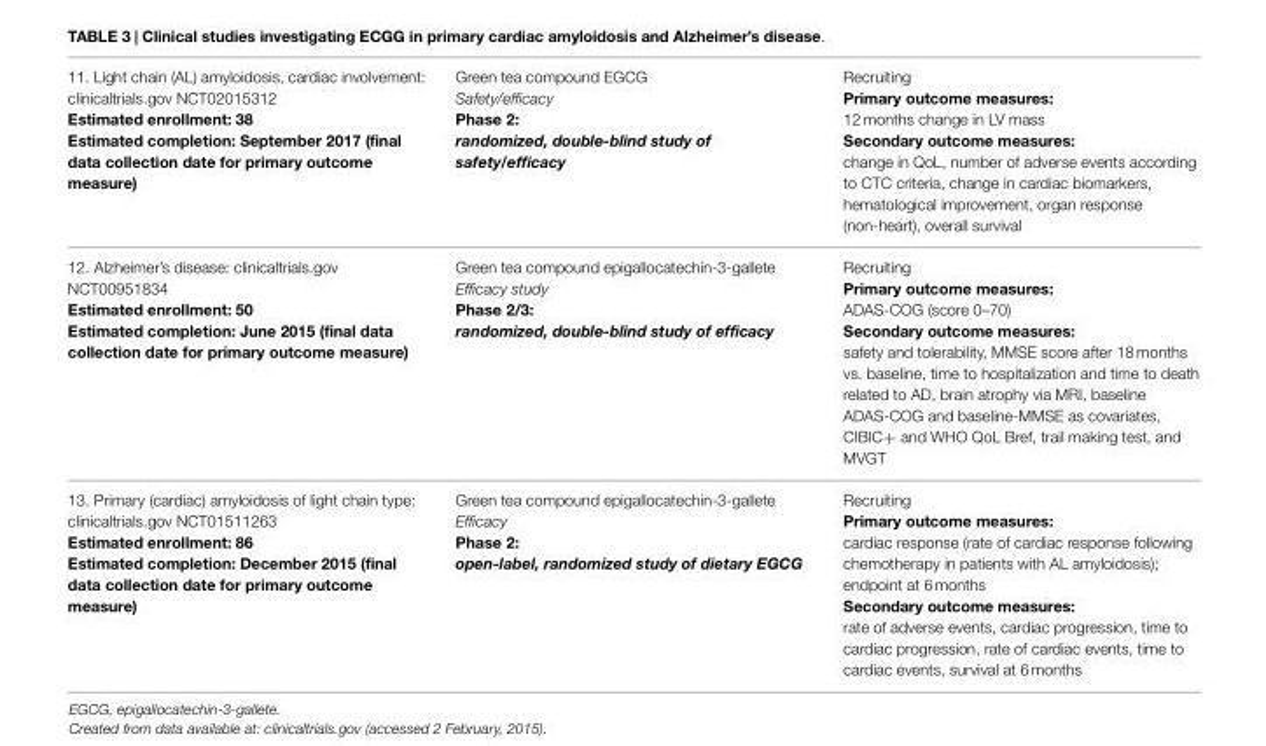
<table><tbody><tr><td>11. Light chain (AL) amyloidosis, cardiac involvement: clinicaltrials.gov NCT02015312 Estimated enrollment: 38 Estimated completion: September 2017 (final data collection date for primary outcome measure)</td><td>Green tea compound EGCG Safety/efficacy Phase 2: randomized, double-blind study of safety/efficacy</td><td>Recruiting Primary outcome measures: 12 months change in LV mass Secondary outcome measures: change in QoL, number of adverse events according to CTC criteria, change in cardiac biomarkers, hematological improvement, organ response (non-heart), overall survival</td></tr><tr><td>12. Alzheimer’s disease: clinicaltrials.gov NCT00951834 Estimated enrollment: 50 Estimated completion: June 2015 (final data collection date for primary outcome measure)</td><td>Green tea compound epigallocatechin-3-gallete Efficacy study Phase 2/3: randomized, double-blind study of efficacy</td><td>Recruiting Primary outcome measures: ADAS-COG (score 0–70) Secondary outcome measures: safety and tolerability, MMSE score after 18 months vs. baseline, time to hospitalization and time to death related to AD, brain atrophy via MRI, baseline ADAS-COG and baseline-MMSE as covariates, CIBIC+ and WHO QoL Bref, trail making test, and MVGT</td></tr><tr><td>13. Primary (cardiac) amyloidosis of light chain type: clinicaltrials.gov NCT01511263 Estimated enrollment: 86 Estimated completion: December 2015 (final data collection date for primary outcome measure)</td><td>Green tea compound epigallocatechin-3-gallete Efficacy Phase 2: open-label, randomized study of dietary EGCG</td><td>Recruiting Primary outcome measures: cardiac response (rate of cardiac response following chemotherapy in patients with AL amyloidosis); endpoint at 6 months Secondary outcome measures: rate of adverse events, cardiac progression, time to cardiac progression, rate of cardiac events, time to cardiac events, survival at 6 months</td></tr></tbody></table>